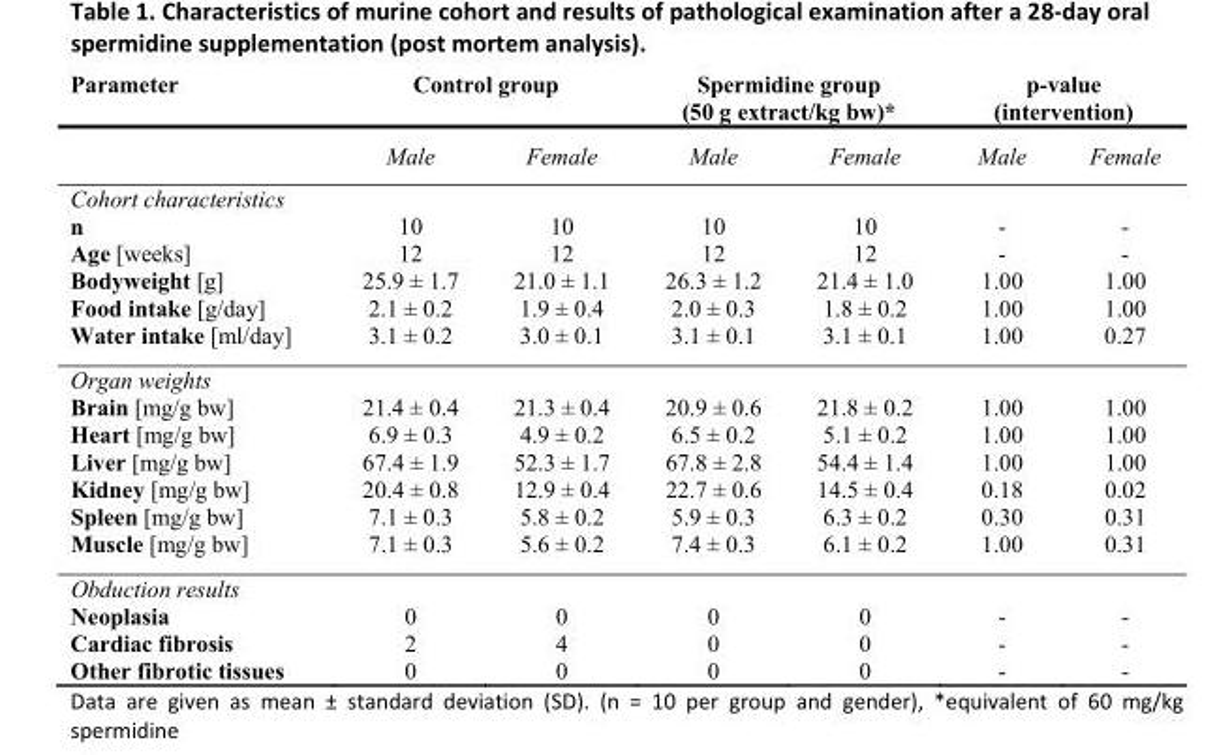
<table><tbody><tr><td rowspan="2">Parameter</td><td colspan="2">Control group</td><td colspan="2">Spermidine group (50 g extract/kg bw)*</td><td colspan="2">p-value (intervention)</td></tr><tr><td>Male</td><td>Female</td><td>Male</td><td>Female</td><td>Male</td><td>Female</td></tr><tr><td colspan="7">Cohort characteristics</td></tr><tr><td>n</td><td>10</td><td>10</td><td>10</td><td>10</td><td>-</td><td>-</td></tr><tr><td>Age [weeks]</td><td>12</td><td>12</td><td>12</td><td>12</td><td>-</td><td>-</td></tr><tr><td>Bodyweight [g]</td><td>25.9 ± 1.7</td><td>21.0 ± 1.1</td><td>26.3 ± 1.2</td><td>21.4 ± 1.0</td><td>1.00</td><td>1.00</td></tr><tr><td>Food intake [g/day]</td><td>2.1 ± 0.2</td><td>1.9 ± 0.4</td><td>2.0 ± 0.3</td><td>1.8 ± 0.2</td><td>1.00</td><td>1.00</td></tr><tr><td>Water intake [ml/day]</td><td>3.1 ± 0.2</td><td>3.0 ± 0.1</td><td>3.1 ± 0.1</td><td>3.1 ± 0.1</td><td>1.00</td><td>0.27</td></tr><tr><td colspan="7">Organ weights</td></tr><tr><td>Brain [mg/g bw]</td><td>21.4 ± 0.4</td><td>21.3 ± 0.4</td><td>20.9 ± 0.6</td><td>21.8 ± 0.2</td><td>1.00</td><td>1.00</td></tr><tr><td>Heart [mg/g bw]</td><td>6.9 ± 0.3</td><td>4.9 ± 0.2</td><td>6.5 ± 0.2</td><td>5.1 ± 0.2</td><td>1.00</td><td>1.00</td></tr><tr><td>Liver [mg/g bw]</td><td>67.4 ± 1.9</td><td>52.3 ± 1.7</td><td>67.8 ± 2.8</td><td>54.4 ± 1.4</td><td>1.00</td><td>1.00</td></tr><tr><td>Kidney [mg/g bw]</td><td>20.4 ± 0.8</td><td>12.9 ± 0.4</td><td>22.7 ± 0.6</td><td>14.5 ± 0.4</td><td>0.18</td><td>0.02</td></tr><tr><td>Spleen [mg/g bw]</td><td>7.1 ± 0.3</td><td>5.8 ± 0.2</td><td>5.9 ± 0.3</td><td>6.3 ± 0.2</td><td>0.30</td><td>0.31</td></tr><tr><td>Muscle [mg/g bw]</td><td>7.1 ± 0.3</td><td>5.6 ± 0.2</td><td>7.4 ± 0.3</td><td>6.1 ± 0.2</td><td>1.00</td><td>0.31</td></tr><tr><td colspan="7">Obduction results</td></tr><tr><td>Neoplasia</td><td>0</td><td>0</td><td>0</td><td>0</td><td>-</td><td>-</td></tr><tr><td>Cardiac fibrosis</td><td>2</td><td>4</td><td>0</td><td>0</td><td>-</td><td>-</td></tr><tr><td>Other fibrotic tissues</td><td>0</td><td>0</td><td>0</td><td>0</td><td>-</td><td>-</td></tr></tbody></table>